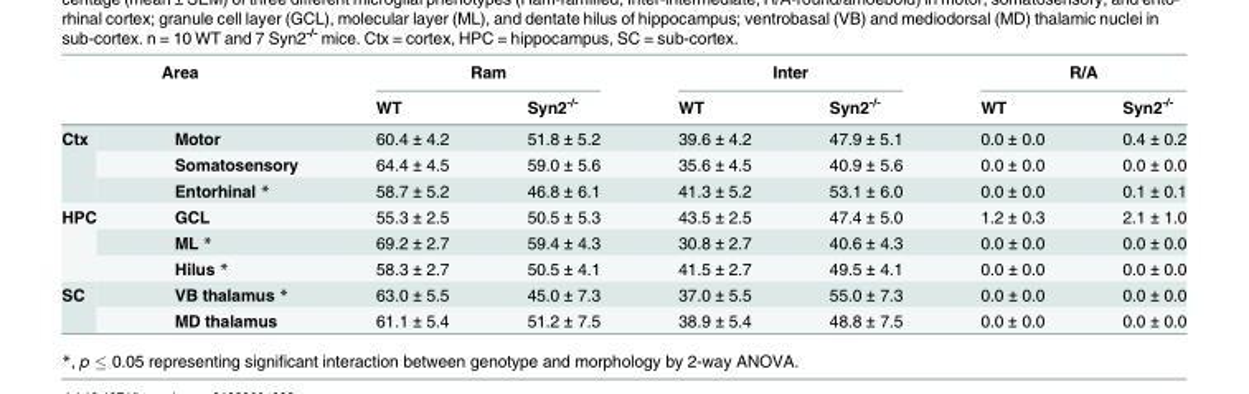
<table><thead><tr><td colspan="2">Area</td><td colspan="2">Ram</td><td colspan="2">Inter</td><td colspan="2">R/A</td></tr><tr><td></td><td></td><td>WT</td><td>Syn2<sup>-/-</sup></td><td>WT</td><td>Syn2<sup>-/-</sup></td><td>WT</td><td>Syn2<sup>-/-</sup></td></tr></thead><tbody><tr><td rowspan="3">Ctx</td><td>Motor</td><td>60.4 ± 4.2</td><td>51.8 ± 5.2</td><td>39.6 ± 4.2</td><td>47.9 ± 5.1</td><td>0.0 ± 0.0</td><td>0.4 ± 0.2</td></tr><tr><td>Somatosensory</td><td>64.4 ± 4.5</td><td>59.0 ± 5.6</td><td>35.6 ± 4.5</td><td>40.9 ± 5.6</td><td>0.0 ± 0.0</td><td>0.0 ± 0.0</td></tr><tr><td>Entorhinal *</td><td>58.7 ± 5.2</td><td>46.8 ± 6.1</td><td>41.3 ± 5.2</td><td>53.1 ± 6.0</td><td>0.0 ± 0.0</td><td>0.1 ± 0.1</td></tr><tr><td rowspan="3">HPC</td><td>GCL</td><td>55.3 ± 2.5</td><td>50.5 ± 5.3</td><td>43.5 ± 2.5</td><td>47.4 ± 5.0</td><td>1.2 ± 0.3</td><td>2.1 ± 1.0</td></tr><tr><td>ML *</td><td>69.2 ± 2.7</td><td>59.4 ± 4.3</td><td>30.8 ± 2.7</td><td>40.6 ± 4.3</td><td>0.0 ± 0.0</td><td>0.0 ± 0.0</td></tr><tr><td>Hilus *</td><td>58.3 ± 2.7</td><td>50.5 ± 4.1</td><td>41.5 ± 2.7</td><td>49.5 ± 4.1</td><td>0.0 ± 0.0</td><td>0.0 ± 0.0</td></tr><tr><td rowspan="2">SC</td><td>VB thalamus *</td><td>63.0 ± 5.5</td><td>45.0 ± 7.3</td><td>37.0 ± 5.5</td><td>55.0 ± 7.3</td><td>0.0 ± 0.0</td><td>0.0 ± 0.0</td></tr><tr><td>MD thalamus</td><td>61.1 ± 5.4</td><td>51.2 ± 7.5</td><td>38.9 ± 5.4</td><td>48.8 ± 7.5</td><td>0.0 ± 0.0</td><td>0.0 ± 0.0</td></tr></tbody></table>